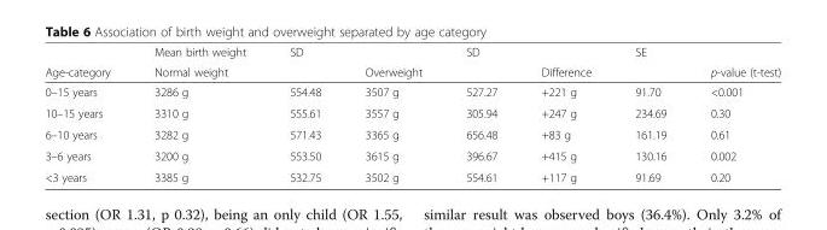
<table><thead><tr><td rowspan="2">Age-category</td><td rowspan="2">Mean birth weight Normal weight</td><td rowspan="2">SD</td><td rowspan="2">Overweight</td><td rowspan="2">SD</td><td rowspan="2">Difference</td><td rowspan="2">SE</td><td rowspan="2">p-value (t-test)</td></tr><tr></tr></thead><tbody><tr><td>0–15 years</td><td>3286 g</td><td>554.48</td><td>3507 g</td><td>527.27</td><td>+221 g</td><td>91.70</td><td>&lt;0.001</td></tr><tr><td>10–15 years</td><td>3310 g</td><td>555.61</td><td>3557 g</td><td>305.94</td><td>+247 g</td><td>234.69</td><td>0.30</td></tr><tr><td>6–10 years</td><td>3282 g</td><td>571.43</td><td>3365 g</td><td>656.48</td><td>+83 g</td><td>161.19</td><td>0.61</td></tr><tr><td>3–6 years</td><td>3200 g</td><td>553.50</td><td>3615 g</td><td>396.67</td><td>+415 g</td><td>130.16</td><td>0.002</td></tr><tr><td>&lt;3 years</td><td>3385 g</td><td>532.75</td><td>3502 g</td><td>554.61</td><td>+117 g</td><td>91.69</td><td>0.20</td></tr></tbody></table>